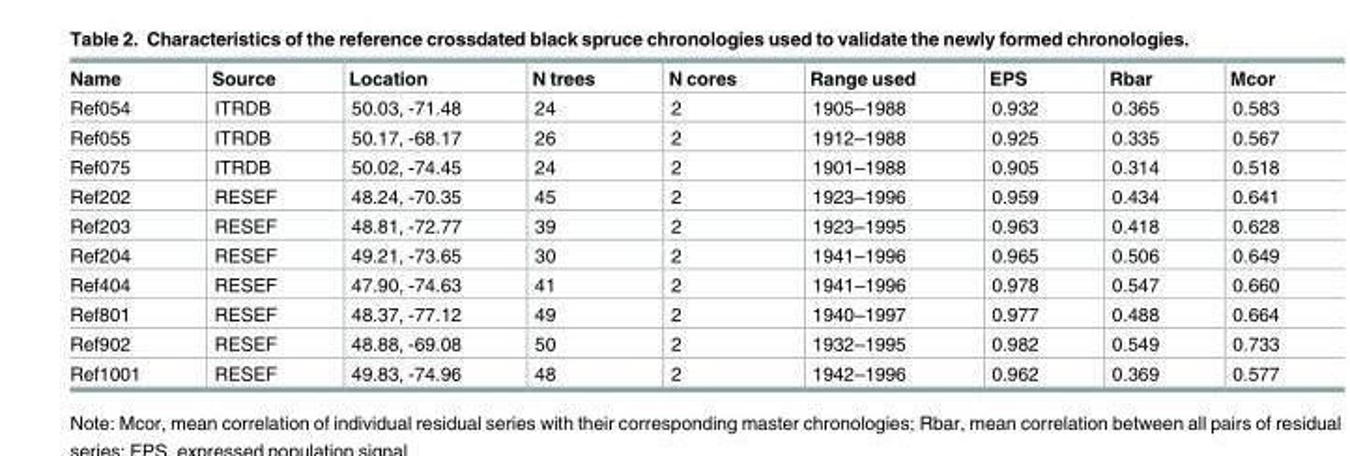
<table><thead><tr><td>Name</td><td>Source</td><td>Location</td><td>N trees</td><td>N cores</td><td>Range used</td><td>EPS</td><td>Rbar</td><td>Mcor</td></tr></thead><tbody><tr><td>Ref054</td><td>ITRDB</td><td>50.03, -71.48</td><td>24</td><td>2</td><td>1905–1988</td><td>0.932</td><td>0.365</td><td>0.583</td></tr><tr><td>Ref055</td><td>ITRDB</td><td>50.17, -68.17</td><td>26</td><td>2</td><td>1912–1988</td><td>0.925</td><td>0.335</td><td>0.567</td></tr><tr><td>Ref075</td><td>ITRDB</td><td>50.02, -74.45</td><td>24</td><td>2</td><td>1901–1988</td><td>0.905</td><td>0.314</td><td>0.518</td></tr><tr><td>Ref202</td><td>RESEF</td><td>48.24, -70.35</td><td>45</td><td>2</td><td>1923–1996</td><td>0.959</td><td>0.434</td><td>0.641</td></tr><tr><td>Ref203</td><td>RESEF</td><td>48.81, -72.77</td><td>39</td><td>2</td><td>1923–1995</td><td>0.963</td><td>0.418</td><td>0.628</td></tr><tr><td>Ref204</td><td>RESEF</td><td>49.21, -73.65</td><td>30</td><td>2</td><td>1941–1996</td><td>0.965</td><td>0.506</td><td>0.649</td></tr><tr><td>Ref404</td><td>RESEF</td><td>47.90, -74.63</td><td>41</td><td>2</td><td>1941–1996</td><td>0.978</td><td>0.547</td><td>0.660</td></tr><tr><td>Ref801</td><td>RESEF</td><td>48.37, -77.12</td><td>49</td><td>2</td><td>1940–1997</td><td>0.977</td><td>0.488</td><td>0.664</td></tr><tr><td>Ref902</td><td>RESEF</td><td>48.88, -69.08</td><td>50</td><td>2</td><td>1932–1995</td><td>0.982</td><td>0.549</td><td>0.733</td></tr><tr><td>Ref1001</td><td>RESEF</td><td>49.83, -74.96</td><td>48</td><td>2</td><td>1942–1996</td><td>0.962</td><td>0.369</td><td>0.577</td></tr></tbody></table>